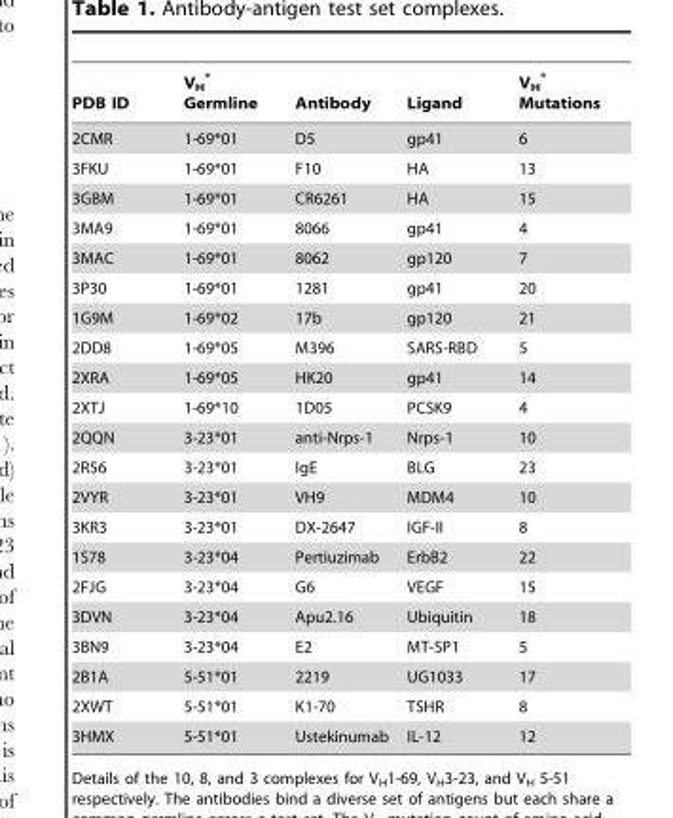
<table><thead><tr><td>PDB ID</td><td>V<sub>H</sub> * Germline</td><td>Antibody</td><td>Ligand</td><td>V<sub>H</sub> * Mutations</td></tr></thead><tbody><tr><td>2CMR</td><td>1-69*01</td><td>D5</td><td>gp41</td><td>6</td></tr><tr><td>3FKU</td><td>1-69*01</td><td>F10</td><td>HA</td><td>13</td></tr><tr><td>3GBM</td><td>1-69*01</td><td>CR6261</td><td>HA</td><td>15</td></tr><tr><td>3MA9</td><td>1-69*01</td><td>8066</td><td>gp41</td><td>4</td></tr><tr><td>3MAC</td><td>1-69*01</td><td>8062</td><td>gp120</td><td>7</td></tr><tr><td>3P30</td><td>1-69*01</td><td>1281</td><td>gp41</td><td>20</td></tr><tr><td>1G9M</td><td>1-69*02</td><td>17b</td><td>gp120</td><td>21</td></tr><tr><td>2DD8</td><td>1-69*05</td><td>M396</td><td>SARS-RBD</td><td>5</td></tr><tr><td>2XRA</td><td>1-69*05</td><td>HK20</td><td>gp41</td><td>14</td></tr><tr><td>2XTJ</td><td>1-69*10</td><td>1D05</td><td>PCSK9</td><td>4</td></tr><tr><td>2QQN</td><td>3-23*01</td><td>anti-Nrps-1</td><td>Nrps-1</td><td>10</td></tr><tr><td>2R56</td><td>3-23*01</td><td>IgE</td><td>BLG</td><td>23</td></tr><tr><td>2VYR</td><td>3-23*01</td><td>VH9</td><td>MDM4</td><td>10</td></tr><tr><td>3KR3</td><td>3-23*01</td><td>DX-2647</td><td>IGF-II</td><td>8</td></tr><tr><td>1S78</td><td>3-23*04</td><td>Pertiuzimab</td><td>ErbB2</td><td>22</td></tr><tr><td>2FJG</td><td>3-23*04</td><td>G6</td><td>VEGF</td><td>15</td></tr><tr><td>3DVN</td><td>3-23*04</td><td>Apu2.16</td><td>Ubiquitin</td><td>18</td></tr><tr><td>3BN9</td><td>3-23*04</td><td>E2</td><td>MT-SP1</td><td>5</td></tr><tr><td>2B1A</td><td>5-51*01</td><td>2219</td><td>UG1033</td><td>17</td></tr><tr><td>2XWT</td><td>5-51*01</td><td>K1-70</td><td>TSHR</td><td>8</td></tr><tr><td>3HMX</td><td>5-51*01</td><td>Ustekinumab</td><td>IL-12</td><td>12</td></tr></tbody></table>